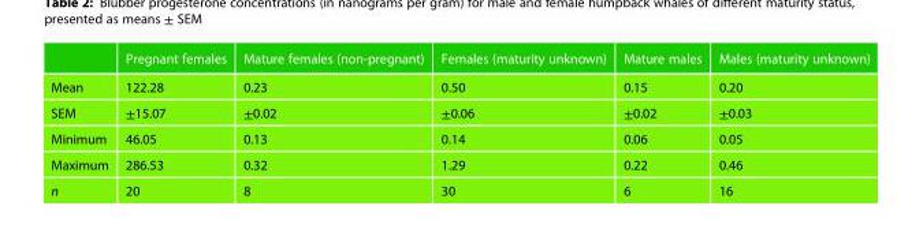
<table><thead><tr><td></td><td>Pregnant females</td><td>Mature females (non-pregnant)</td><td>Females (maturity unknown)</td><td>Mature males</td><td>Males (maturity unknown)</td></tr></thead><tbody><tr><td>Mean</td><td>122.28</td><td>0.23</td><td>0.50</td><td>0.15</td><td>0.20</td></tr><tr><td>SEM</td><td>±15.07</td><td>±0.02</td><td>±0.06</td><td>±0.02</td><td>±0.03</td></tr><tr><td>Minimum</td><td>46.05</td><td>0.13</td><td>0.14</td><td>0.06</td><td>0.05</td></tr><tr><td>Maximum</td><td>286.53</td><td>0.32</td><td>1.29</td><td>0.22</td><td>0.46</td></tr><tr><td>n</td><td>20</td><td>8</td><td>30</td><td>6</td><td>16</td></tr></tbody></table>